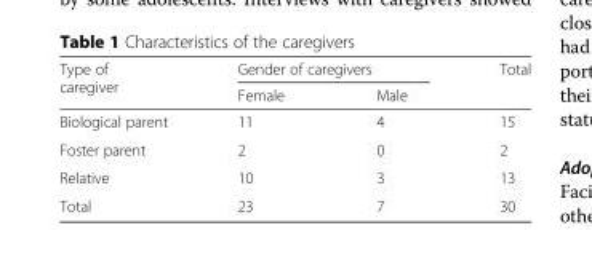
<table><thead><tr><td rowspan="2">Type of caregiver</td><td colspan="2">Gender of caregivers</td><td rowspan="2">Total</td></tr><tr><td>Female</td><td>Male</td></tr></thead><tbody><tr><td>Biological parent</td><td>11</td><td>4</td><td>15</td></tr><tr><td>Foster parent</td><td>2</td><td>0</td><td>2</td></tr><tr><td>Relative</td><td>10</td><td>3</td><td>13</td></tr><tr><td>Total</td><td>23</td><td>7</td><td>30</td></tr></tbody></table>